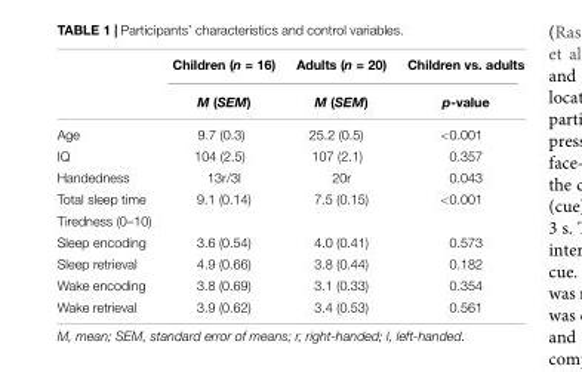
<table><thead><tr><td rowspan="2"></td><td rowspan="2">Children (n = 16) M (SEM)</td><td rowspan="2">Adults (n = 20) M (SEM)</td><td rowspan="2">Children vs. adults p-value</td></tr><tr></tr></thead><tbody><tr><td>Age</td><td>9.7 (0.3)</td><td>25.2 (0.5)</td><td>&lt;0.001</td></tr><tr><td>IQ</td><td>104 (2.5)</td><td>107 (2.1)</td><td>0.357</td></tr><tr><td>Handedness</td><td>13r/3l</td><td>20r</td><td>0.043</td></tr><tr><td>Total sleep time</td><td>9.1 (0.14)</td><td>7.5 (0.15)</td><td>&lt;0.001</td></tr><tr><td colspan="4">Tiredness (0–10)</td></tr><tr><td>Sleep encoding</td><td>3.6 (0.54)</td><td>4.0 (0.41)</td><td>0.573</td></tr><tr><td>Sleep retrieval</td><td>4.9 (0.66)</td><td>3.8 (0.44)</td><td>0.182</td></tr><tr><td>Wake encoding</td><td>3.8 (0.69)</td><td>3.1 (0.33)</td><td>0.354</td></tr><tr><td>Wake retrieval</td><td>3.9 (0.62)</td><td>3.4 (0.53)</td><td>0.561</td></tr></tbody></table>